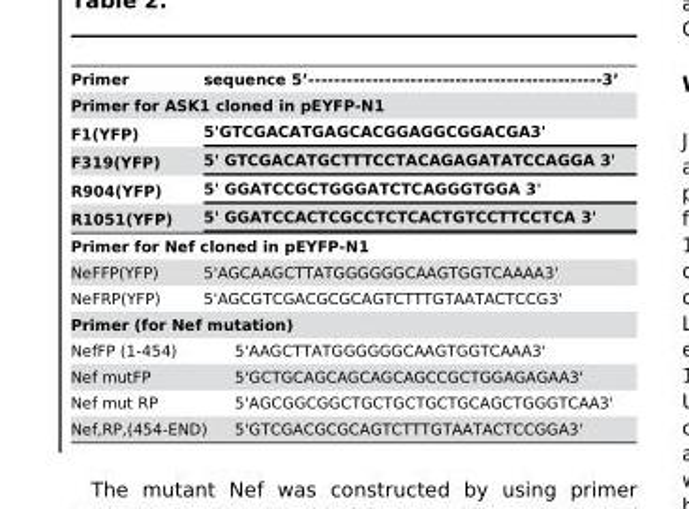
<table><thead><tr><td>Primer</td><td colspan="2">sequence 5’----------------------------------------------3’</td></tr><tr><td colspan="3">Primer for ASK1 cloned in pEYFP-N1</td></tr><tr><td rowspan="4">F1(YFP) F319(YFP) R904(YFP) R1051(YFP)</td><td rowspan="4" colspan="2">5&#x27;GTCGACATGAGCACGGAGGCGGACGA3&#x27; 5&#x27; GTCGACATGCTTTCCTACAGAGATATCCAGGA 3&#x27; 5&#x27; GGATCCGCTGGGATCTCAGGGTGGA 3&#x27; 5&#x27; GGATCCACTCGCCTCTCACTGTCCTTCCTCA 3&#x27;</td></tr><tr></tr><tr></tr><tr></tr></thead><tbody><tr><td colspan="3">Primer for Nef cloned in pEYFP-N1</td></tr><tr><td>NeFFP(YFP)</td><td colspan="2">5&#x27;AGCAAGCTTATGGGGGGCAAGTGGTCAAAA3&#x27;</td></tr><tr><td>NeFRP(YFP)</td><td colspan="2">5&#x27;AGCGTCGACGCGCAGTCTTTGTAATACTCCG3&#x27;</td></tr><tr><td colspan="3">Primer (for Nef mutation)</td></tr><tr><td colspan="2">NefFP (1-454)</td><td>5&#x27;AAGCTTATGGGGGGCAAGTGGTCAAA3&#x27;</td></tr><tr><td colspan="2">Nef mutFP</td><td>5&#x27;GCTGCAGCAGCAGCAGCCGCTGGAGAGAA3&#x27;</td></tr><tr><td colspan="2">Nef mut RP</td><td>5&#x27;AGCGGCGGCTGCTGCTGCTGCAGCTGGGTCAA3&#x27;</td></tr><tr><td colspan="2">Nef,RP,(454-END)</td><td>5&#x27;GTCGACGCGCAGTCTTTGTAATACTCCGGA3&#x27;</td></tr></tbody></table>